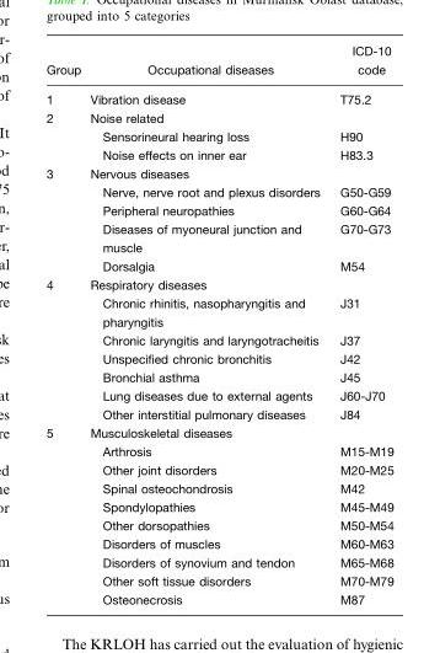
<table><thead><tr><td>Group</td><td>Occupational diseases</td><td>ICD-10 code</td></tr></thead><tbody><tr><td>1</td><td>Vibration disease</td><td>T75.2</td></tr><tr><td rowspan="3">2</td><td>Noise related</td><td></td></tr><tr><td>Sensorineural hearing loss</td><td>H90</td></tr><tr><td>Noise effects on inner ear</td><td>H83.3</td></tr><tr><td rowspan="5">3</td><td>Nervous diseases</td><td></td></tr><tr><td>Nerve, nerve root and plexus disorders</td><td>G50-G59</td></tr><tr><td>Peripheral neuropathies</td><td>G60-G64</td></tr><tr><td>Diseases of myoneural junction and muscle</td><td>G70-G73</td></tr><tr><td>Dorsalgia</td><td>M54</td></tr><tr><td rowspan="7">4</td><td>Respiratory diseases</td><td></td></tr><tr><td>Chronic rhinitis, nasopharyngitis and pharyngitis</td><td>J31</td></tr><tr><td>Chronic laryngitis and laryngotracheitis</td><td>J37</td></tr><tr><td>Unspecified chronic bronchitis</td><td>J42</td></tr><tr><td>Bronchial asthma</td><td>J45</td></tr><tr><td>Lung diseases due to external agents</td><td>J60-J70</td></tr><tr><td>Other interstitial pulmonary diseases</td><td>J84</td></tr><tr><td rowspan="10">5</td><td>Musculoskeletal diseases</td><td></td></tr><tr><td>Arthrosis</td><td>M15-M19</td></tr><tr><td>Other joint disorders</td><td>M20-M25</td></tr><tr><td>Spinal osteochondrosis</td><td>M42</td></tr><tr><td>Spondylopathies</td><td>M45-M49</td></tr><tr><td>Other dorsopathies</td><td>M50-M54</td></tr><tr><td>Disorders of muscles</td><td>M60-M63</td></tr><tr><td>Disorders of synovium and tendon</td><td>M65-M68</td></tr><tr><td>Other soft tissue disorders</td><td>M70-M79</td></tr><tr><td>Osteonecrosis</td><td>M87</td></tr></tbody></table>